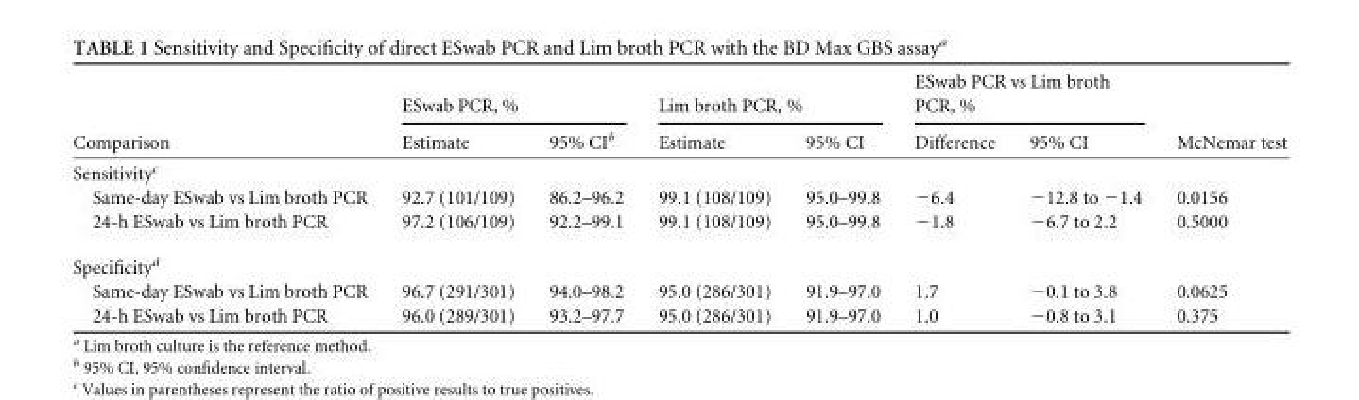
<table><thead><tr><td rowspan="2">Comparison</td><td colspan="2">ESwab PCR, %</td><td colspan="2">Lim broth PCR, %</td><td colspan="2">ESwab PCR vs Lim broth PCR, %</td><td rowspan="2">McNemar test</td></tr><tr><td>Estimate</td><td>95% CI<sup>b</sup></td><td>Estimate</td><td>95% CI</td><td>Difference</td><td>95% CI</td></tr></thead><tbody><tr><td colspan="8">Sensitivity<sup>c</sup></td></tr><tr><td>Same-day ESwab vs Lim broth PCR</td><td>92.7 (101/109)</td><td>86.2–96.2</td><td>99.1 (108/109)</td><td>95.0–99.8</td><td>−6.4</td><td>−12.8 to −1.4</td><td>0.0156</td></tr><tr><td>24-h ESwab vs Lim broth PCR</td><td>97.2 (106/109)</td><td>92.2–99.1</td><td>99.1 (108/109)</td><td>95.0–99.8</td><td>−1.8</td><td>−6.7 to 2.2</td><td>0.5000</td></tr><tr><td colspan="8">Specificity<sup>d</sup></td></tr><tr><td>Same-day ESwab vs Lim broth PCR</td><td>96.7 (291/301)</td><td>94.0–98.2</td><td>95.0 (286/301)</td><td>91.9–97.0</td><td>1.7</td><td>−0.1 to 3.8</td><td>0.0625</td></tr><tr><td>24-h ESwab vs Lim broth PCR</td><td>96.0 (289/301)</td><td>93.2–97.7</td><td>95.0 (286/301)</td><td>91.9–97.0</td><td>1.0</td><td>−0.8 to 3.1</td><td>0.375</td></tr></tbody></table>